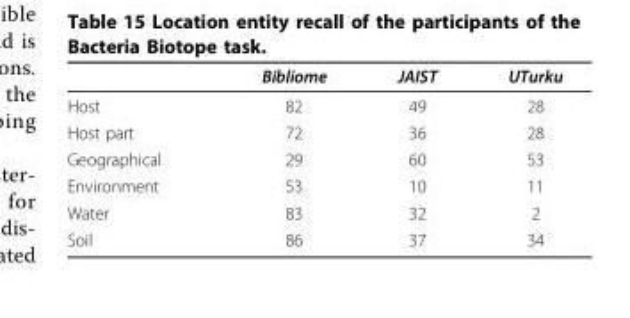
<table><thead><tr><td></td><td>Bibliome</td><td>JAIST</td><td>UTurku</td></tr></thead><tbody><tr><td>Host</td><td>82</td><td>49</td><td>28</td></tr><tr><td>Host part</td><td>72</td><td>36</td><td>28</td></tr><tr><td>Geographical</td><td>29</td><td>60</td><td>53</td></tr><tr><td>Environment</td><td>53</td><td>10</td><td>11</td></tr><tr><td>Water</td><td>83</td><td>32</td><td>2</td></tr><tr><td>Soil</td><td>86</td><td>37</td><td>34</td></tr></tbody></table>